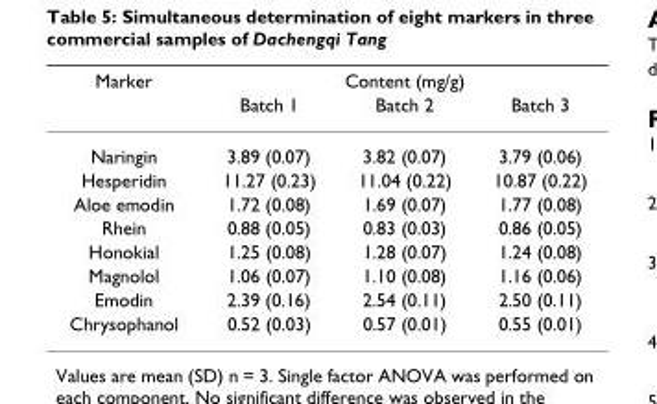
<table><thead><tr><td rowspan="2">Marker</td><td colspan="3">Content (mg/g)</td></tr><tr><td>Batch 1</td><td>Batch 2</td><td>Batch 3</td></tr></thead><tbody><tr><td>Naringin</td><td>3.89 (0.07)</td><td>3.82 (0.07)</td><td>3.79 (0.06)</td></tr><tr><td>Hesperidin</td><td>11.27 (0.23)</td><td>11.04 (0.22)</td><td>10.87 (0.22)</td></tr><tr><td>Aloe emodin</td><td>1.72 (0.08)</td><td>1.69 (0.07)</td><td>1.77 (0.08)</td></tr><tr><td>Rhein</td><td>0.88 (0.05)</td><td>0.83 (0.03)</td><td>0.86 (0.05)</td></tr><tr><td>Honokial</td><td>1.25 (0.08)</td><td>1.28 (0.07)</td><td>1.24 (0.08)</td></tr><tr><td>Magnolol</td><td>1.06 (0.07)</td><td>1.10 (0.08)</td><td>1.16 (0.06)</td></tr><tr><td>Emodin</td><td>2.39 (0.16)</td><td>2.54 (0.11)</td><td>2.50 (0.11)</td></tr><tr><td>Chrysophanol</td><td>0.52 (0.03)</td><td>0.57 (0.01)</td><td>0.55 (0.01)</td></tr></tbody></table>